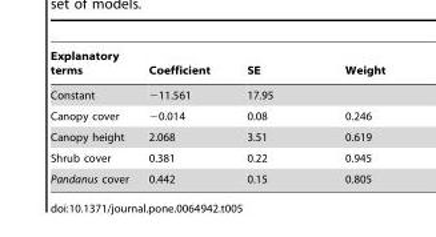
<table><thead><tr><td>Explanatory terms</td><td>Coefficient</td><td>SE</td><td>Weight</td></tr></thead><tbody><tr><td>Constant</td><td>−11.561</td><td>17.95</td><td></td></tr><tr><td>Canopy cover</td><td>−0.014</td><td>0.08</td><td>0.246</td></tr><tr><td>Canopy height</td><td>2.068</td><td>3.51</td><td>0.619</td></tr><tr><td>Shrub cover</td><td>0.381</td><td>0.22</td><td>0.945</td></tr><tr><td>Pandanus cover</td><td>0.442</td><td>0.15</td><td>0.805</td></tr></tbody></table>